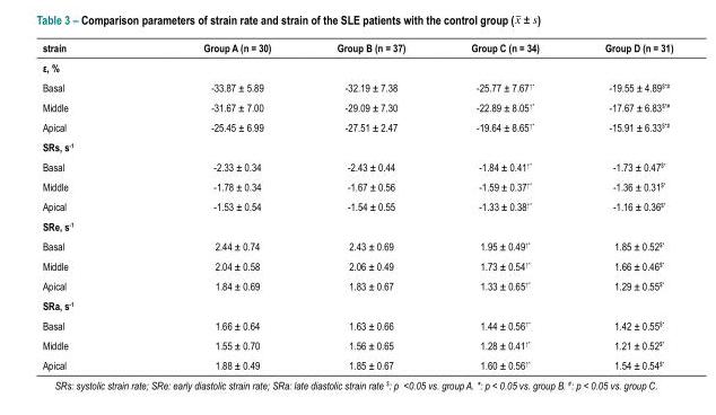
<table><thead><tr><td>strain</td><td>Group A (n = 30)</td><td>Group B (n = 37)</td><td>Group C (n = 34)</td><td>Group D (n = 31)</td></tr></thead><tbody><tr><td colspan="5">ε, %</td></tr><tr><td>Basal</td><td>-33.87 ± 5.89</td><td>-32.19 ± 7.38</td><td>-25.77 ± 7.67<sup>↑*</sup></td><td>-19.55 ± 4.89<sup>$*#</sup></td></tr><tr><td>Middle</td><td>-31.67 ± 7.00</td><td>-29.09 ± 7.30</td><td>-22.89 ± 8.05<sup>↑*</sup></td><td>-17.67 ± 6.83<sup>$*#</sup></td></tr><tr><td>Apical</td><td>-25.45 ± 6.99</td><td>-27.51 ± 2.47</td><td>-19.64 ± 8.65<sup>↑*</sup></td><td>-15.91 ± 6.33<sup>$*#</sup></td></tr><tr><td colspan="5">SRs, s<sup>-1</sup></td></tr><tr><td>Basal</td><td>-2.33 ± 0.34</td><td>-2.43 ± 0.44</td><td>-1.84 ± 0.41<sup>↑*</sup></td><td>-1.73 ± 0.47<sup>$*</sup></td></tr><tr><td>Middle</td><td>-1.78 ± 0.34</td><td>-1.67 ± 0.56</td><td>-1.59 ± 0.37<sup>↑*</sup></td><td>-1.36 ± 0.31<sup>$*</sup></td></tr><tr><td>Apical</td><td>-1.53 ± 0.54</td><td>-1.54 ± 0.55</td><td>-1.33 ± 0.38<sup>↑*</sup></td><td>-1.16 ± 0.36<sup>$*</sup></td></tr><tr><td colspan="5">SRe, s<sup>-1</sup></td></tr><tr><td>Basal</td><td>2.44 ± 0.74</td><td>2.43 ± 0.69</td><td>1.95 ± 0.49<sup>↑*</sup></td><td>1.85 ± 0.52<sup>$*</sup></td></tr><tr><td>Middle</td><td>2.04 ± 0.58</td><td>2.06 ± 0.49</td><td>1.73 ± 0.54<sup>↑*</sup></td><td>1.66 ± 0.46<sup>$*</sup></td></tr><tr><td>Apical</td><td>1.84 ± 0.69</td><td>1.83 ± 0.67</td><td>1.33 ± 0.65<sup>↑*</sup></td><td>1.29 ± 0.55<sup>$*</sup></td></tr><tr><td colspan="5">SRa, s<sup>-1</sup></td></tr><tr><td>Basal</td><td>1.66 ± 0.64</td><td>1.63 ± 0.66</td><td>1.44 ± 0.56<sup>↑*</sup></td><td>1.42 ± 0.55<sup>$*</sup></td></tr><tr><td>Middle</td><td>1.55 ± 0.70</td><td>1.56 ± 0.65</td><td>1.28 ± 0.41<sup>↑*</sup></td><td>1.21 ± 0.52<sup>$*</sup></td></tr><tr><td>Apical</td><td>1.88 ± 0.49</td><td>1.85 ± 0.67</td><td>1.60 ± 0.56<sup>↑*</sup></td><td>1.54 ± 0.54<sup>$*</sup></td></tr></tbody></table>